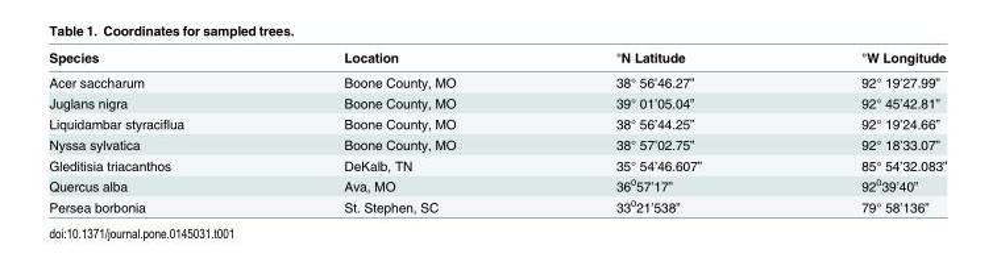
<table><thead><tr><td>Species</td><td>Location</td><td>°N Latitude</td><td>°W Longitude</td></tr></thead><tbody><tr><td>Acer saccharum</td><td>Boone County, MO</td><td>38° 56’46.27”</td><td>92° 19’27.99”</td></tr><tr><td>Juglans nigra</td><td>Boone County, MO</td><td>39° 01’05.04”</td><td>92° 45’42.81”</td></tr><tr><td>Liquidambar styraciflua</td><td>Boone County, MO</td><td>38° 56’44.25”</td><td>92° 19’24.66”</td></tr><tr><td>Nyssa sylvatica</td><td>Boone County, MO</td><td>38° 57’02.75”</td><td>92° 18’33.07”</td></tr><tr><td>Gleditisia triacanthos</td><td>DeKalb, TN</td><td>35° 54’46.607”</td><td>85° 54’32.083”</td></tr><tr><td>Quercus alba</td><td>Ava, MO</td><td>36<sup>0</sup>57’17”</td><td>92<sup>0</sup>39’40”</td></tr><tr><td>Persea borbonia</td><td>St. Stephen, SC</td><td>33<sup>0</sup>21’538”</td><td>79° 58’136”</td></tr></tbody></table>